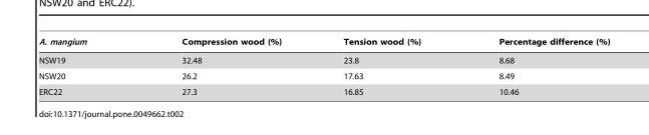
<table><thead><tr><td>A. mangium</td><td>Compression wood (%)</td><td>Tension wood (%)</td><td>Percentage difference (%)</td></tr></thead><tbody><tr><td>NSW19</td><td>32.48</td><td>23.8</td><td>8.68</td></tr><tr><td>NSW20</td><td>26.2</td><td>17.63</td><td>8.49</td></tr><tr><td>ERC22</td><td>27.3</td><td>16.85</td><td>10.46</td></tr></tbody></table>